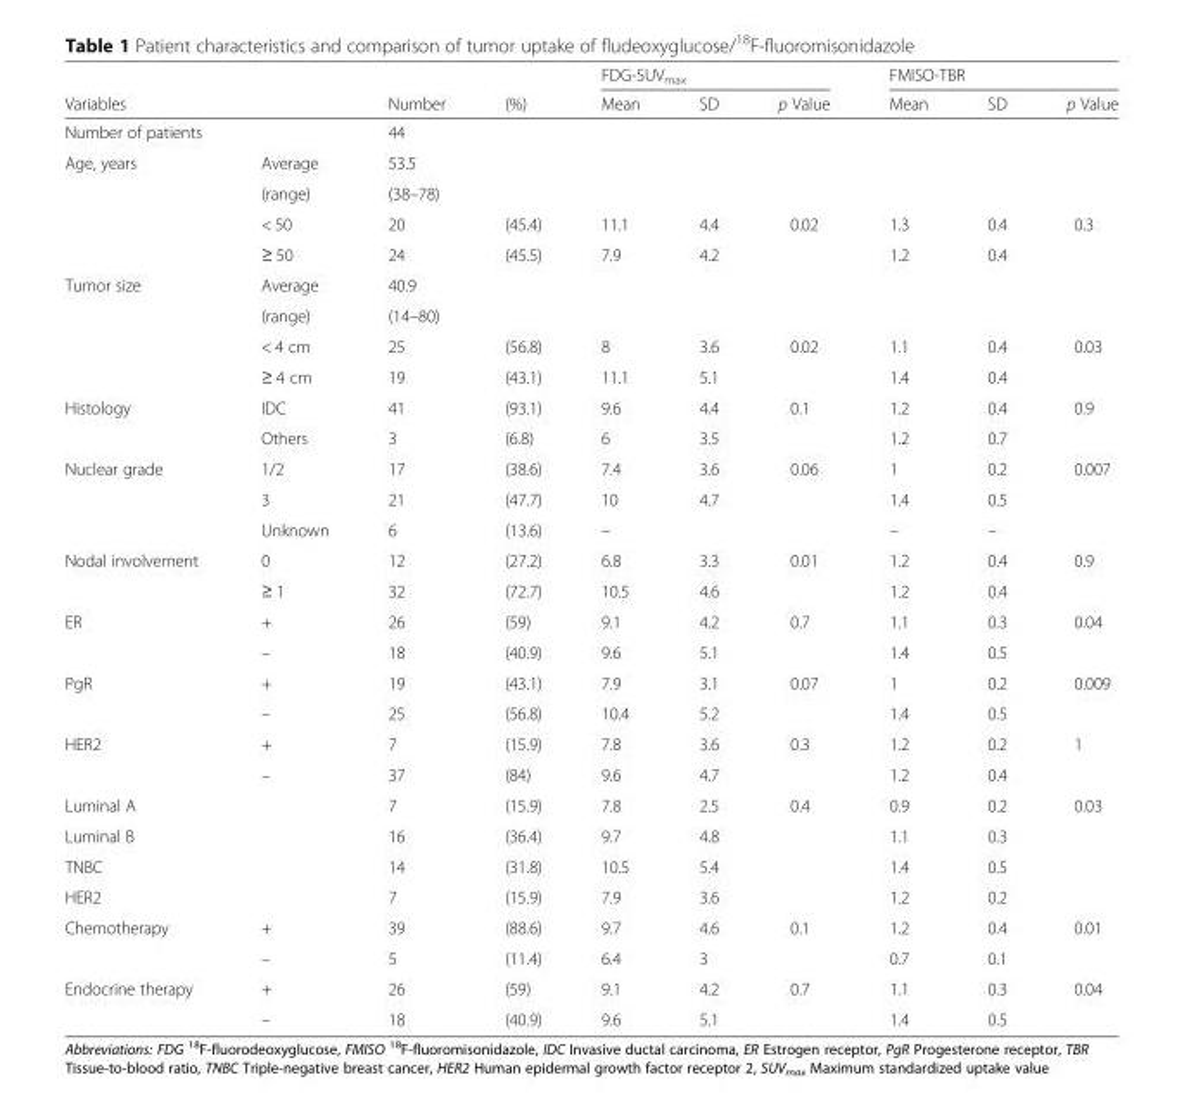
<table><thead><tr><td rowspan="2">Variables</td><td rowspan="2"></td><td rowspan="2">Number</td><td rowspan="2">(%)</td><td colspan="3">FDG-SUV<sub>max</sub></td><td colspan="3">FMISO-TBR</td></tr><tr><td>Mean</td><td>SD</td><td>p Value</td><td>Mean</td><td>SD</td><td>p Value</td></tr></thead><tbody><tr><td>Number of patients</td><td></td><td>44</td><td></td><td></td><td></td><td></td><td></td><td></td><td></td></tr><tr><td rowspan="4">Age, years</td><td>Average</td><td>53.5</td><td></td><td></td><td></td><td></td><td></td><td></td><td></td></tr><tr><td>(range)</td><td>(38–78)</td><td></td><td></td><td></td><td></td><td></td><td></td><td></td></tr><tr><td>&lt; 50</td><td>20</td><td>(45.4)</td><td>11.1</td><td>4.4</td><td rowspan="2">0.02</td><td>1.3</td><td>0.4</td><td rowspan="2">0.3</td></tr><tr><td>≥ 50</td><td>24</td><td>(45.5)</td><td>7.9</td><td>4.2</td><td>1.2</td><td>0.4</td></tr><tr><td rowspan="4">Tumor size</td><td>Average</td><td>40.9</td><td></td><td></td><td></td><td></td><td></td><td></td><td></td></tr><tr><td>(range)</td><td>(14–80)</td><td></td><td></td><td></td><td></td><td></td><td></td><td></td></tr><tr><td>&lt; 4 cm</td><td>25</td><td>(56.8)</td><td>8</td><td>3.6</td><td rowspan="2">0.02</td><td>1.1</td><td>0.4</td><td rowspan="2">0.03</td></tr><tr><td>≥ 4 cm</td><td>19</td><td>(43.1)</td><td>11.1</td><td>5.1</td><td>1.4</td><td>0.4</td></tr><tr><td rowspan="2">Histology</td><td>IDC</td><td>41</td><td>(93.1)</td><td>9.6</td><td>4.4</td><td rowspan="2">0.1</td><td>1.2</td><td>0.4</td><td rowspan="2">0.9</td></tr><tr><td>Others</td><td>3</td><td>(6.8)</td><td>6</td><td>3.5</td><td>1.2</td><td>0.7</td></tr><tr><td rowspan="3">Nuclear grade</td><td>1/2</td><td>17</td><td>(38.6)</td><td>7.4</td><td>3.6</td><td rowspan="2">0.06</td><td>1</td><td>0.2</td><td rowspan="2">0.007</td></tr><tr><td>3</td><td>21</td><td>(47.7)</td><td>10</td><td>4.7</td><td>1.4</td><td>0.5</td></tr><tr><td>Unknown</td><td>6</td><td>(13.6)</td><td>–</td><td></td><td></td><td>–</td><td>–</td><td></td></tr><tr><td rowspan="2">Nodal involvement</td><td>0</td><td>12</td><td>(27.2)</td><td>6.8</td><td>3.3</td><td rowspan="2">0.01</td><td>1.2</td><td>0.4</td><td rowspan="2">0.9</td></tr><tr><td>≥ 1</td><td>32</td><td>(72.7)</td><td>10.5</td><td>4.6</td><td>1.2</td><td>0.4</td></tr><tr><td rowspan="2">ER</td><td>+</td><td>26</td><td>(59)</td><td>9.1</td><td>4.2</td><td rowspan="2">0.7</td><td>1.1</td><td>0.3</td><td rowspan="2">0.04</td></tr><tr><td>–</td><td>18</td><td>(40.9)</td><td>9.6</td><td>5.1</td><td>1.4</td><td>0.5</td></tr><tr><td rowspan="2">PgR</td><td>+</td><td>19</td><td>(43.1)</td><td>7.9</td><td>3.1</td><td rowspan="2">0.07</td><td>1</td><td>0.2</td><td rowspan="2">0.009</td></tr><tr><td>–</td><td>25</td><td>(56.8)</td><td>10.4</td><td>5.2</td><td>1.4</td><td>0.5</td></tr><tr><td rowspan="2">HER2</td><td>+</td><td>7</td><td>(15.9)</td><td>7.8</td><td>3.6</td><td rowspan="2">0.3</td><td>1.2</td><td>0.2</td><td rowspan="2">1</td></tr><tr><td>–</td><td>37</td><td>(84)</td><td>9.6</td><td>4.7</td><td>1.2</td><td>0.4</td></tr><tr><td>Luminal A</td><td></td><td>7</td><td>(15.9)</td><td>7.8</td><td>2.5</td><td rowspan="4">0.4</td><td>0.9</td><td>0.2</td><td rowspan="4">0.03</td></tr><tr><td>Luminal B</td><td></td><td>16</td><td>(36.4)</td><td>9.7</td><td>4.8</td><td>1.1</td><td>0.3</td></tr><tr><td>TNBC</td><td></td><td>14</td><td>(31.8)</td><td>10.5</td><td>5.4</td><td>1.4</td><td>0.5</td></tr><tr><td>HER2</td><td></td><td>7</td><td>(15.9)</td><td>7.9</td><td>3.6</td><td>1.2</td><td>0.2</td></tr><tr><td rowspan="2">Chemotherapy</td><td>+</td><td>39</td><td>(88.6)</td><td>9.7</td><td>4.6</td><td rowspan="2">0.1</td><td>1.2</td><td>0.4</td><td rowspan="2">0.01</td></tr><tr><td>–</td><td>5</td><td>(11.4)</td><td>6.4</td><td>3</td><td>0.7</td><td>0.1</td></tr><tr><td rowspan="2">Endocrine therapy</td><td>+</td><td>26</td><td>(59)</td><td>9.1</td><td>4.2</td><td rowspan="2">0.7</td><td>1.1</td><td>0.3</td><td rowspan="2">0.04</td></tr><tr><td>–</td><td>18</td><td>(40.9)</td><td>9.6</td><td>5.1</td><td>1.4</td><td>0.5</td></tr></tbody></table>